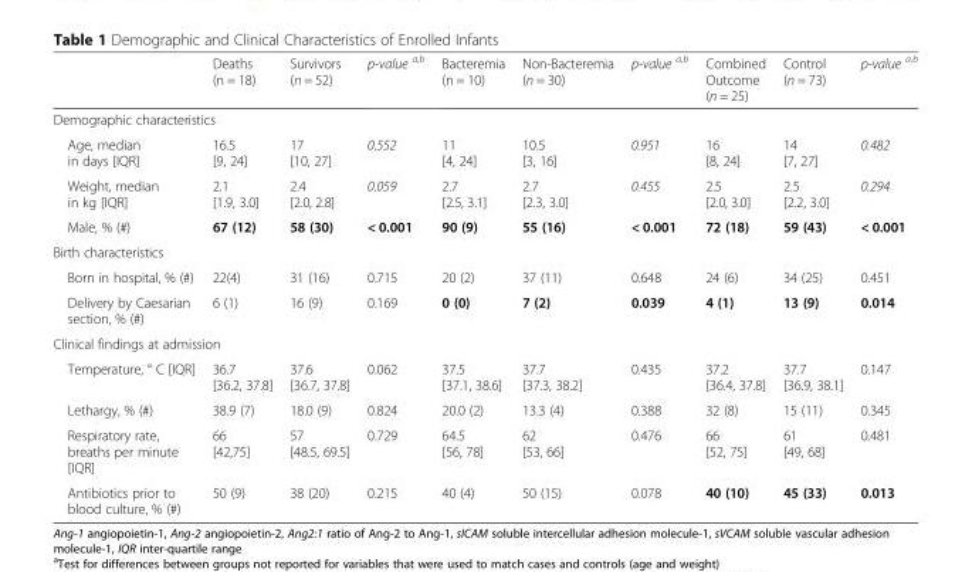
<table><thead><tr><td></td><td>Deaths (n = 18)</td><td>Survivors (n = 52)</td><td>p-value <sup>a,b</sup></td><td>Bacteremia (n = 10)</td><td>Non-Bacteremia (n = 30)</td><td>p-value <sup>a,b</sup></td><td>Combined Outcome (n = 25)</td><td>Control (n = 73)</td><td>p-value <sup>a,b</sup></td></tr></thead><tbody><tr><td colspan="10">Demographic characteristics</td></tr><tr><td>Age, median in days [IQR]</td><td>16.5 [9, 24]</td><td>17 [10, 27]</td><td>0.552</td><td>11 [4, 24]</td><td>10.5 [3, 16]</td><td>0.951</td><td>16 [8, 24]</td><td>14 [7, 27]</td><td>0.482</td></tr><tr><td>Weight, median in kg [IQR]</td><td>2.1 [1.9, 3.0]</td><td>2.4 [2.0, 2.8]</td><td>0.059</td><td>2.7 [2.5, 3.1]</td><td>2.7 [2.3, 3.0]</td><td>0.455</td><td>2.5 [2.0, 3.0]</td><td>2.5 [2.2, 3.0]</td><td>0.294</td></tr><tr><td>Male, % (#)</td><td>67 (12)</td><td>58 (30)</td><td>&lt; 0.001</td><td>90 (9)</td><td>55 (16)</td><td>&lt; 0.001</td><td>72 (18)</td><td>59 (43)</td><td>&lt; 0.001</td></tr><tr><td colspan="10">Birth characteristics</td></tr><tr><td>Born in hospital, % (#)</td><td>22(4)</td><td>31 (16)</td><td>0.715</td><td>20 (2)</td><td>37 (11)</td><td>0.648</td><td>24 (6)</td><td>34 (25)</td><td>0.451</td></tr><tr><td>Delivery by Caesarian section, % (#)</td><td>6 (1)</td><td>16 (9)</td><td>0.169</td><td>0 (0)</td><td>7 (2)</td><td>0.039</td><td>4 (1)</td><td>13 (9)</td><td>0.014</td></tr><tr><td colspan="10">Clinical findings at admission</td></tr><tr><td>Temperature, ° C [IQR]</td><td>36.7 [36.2, 37.8]</td><td>37.6 [36.7, 37.8]</td><td>0.062</td><td>37.5 [37.1, 38.6]</td><td>37.7 [37.3, 38.2]</td><td>0.435</td><td>37.2 [36.4, 37.8]</td><td>37.7 [36.9, 38.1]</td><td>0.147</td></tr><tr><td>Lethargy, % (#)</td><td>38.9 (7)</td><td>18.0 (9)</td><td>0.824</td><td>20.0 (2)</td><td>13.3 (4)</td><td>0.388</td><td>32 (8)</td><td>15 (11)</td><td>0.345</td></tr><tr><td>Respiratory rate, breaths per minute [IQR]</td><td>66 [42,75]</td><td>57 [48.5, 69.5]</td><td>0.729</td><td>64.5 [56, 78]</td><td>62 [53, 66]</td><td>0.476</td><td>66 [52, 75]</td><td>61 [49, 68]</td><td>0.481</td></tr><tr><td>Antibiotics prior to blood culture, % (#)</td><td>50 (9)</td><td>38 (20)</td><td>0.215</td><td>40 (4)</td><td>50 (15)</td><td>0.078</td><td>40 (10)</td><td>45 (33)</td><td>0.013</td></tr></tbody></table>